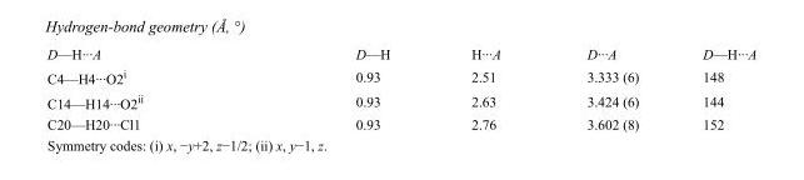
<table><tbody><tr><td>D—H···A</td><td>D—H</td><td>H···A</td><td>D···A</td><td>D—H···A</td></tr><tr><td>C4—H4···O2<sup>i</sup></td><td>0.93</td><td>2.51</td><td>3.333 (6)</td><td>148</td></tr><tr><td>C14—H14···O2<sup>ii</sup></td><td>0.93</td><td>2.63</td><td>3.424 (6)</td><td>144</td></tr><tr><td>C20—H20···Cl1</td><td>0.93</td><td>2.76</td><td>3.602 (8)</td><td>152</td></tr></tbody></table>